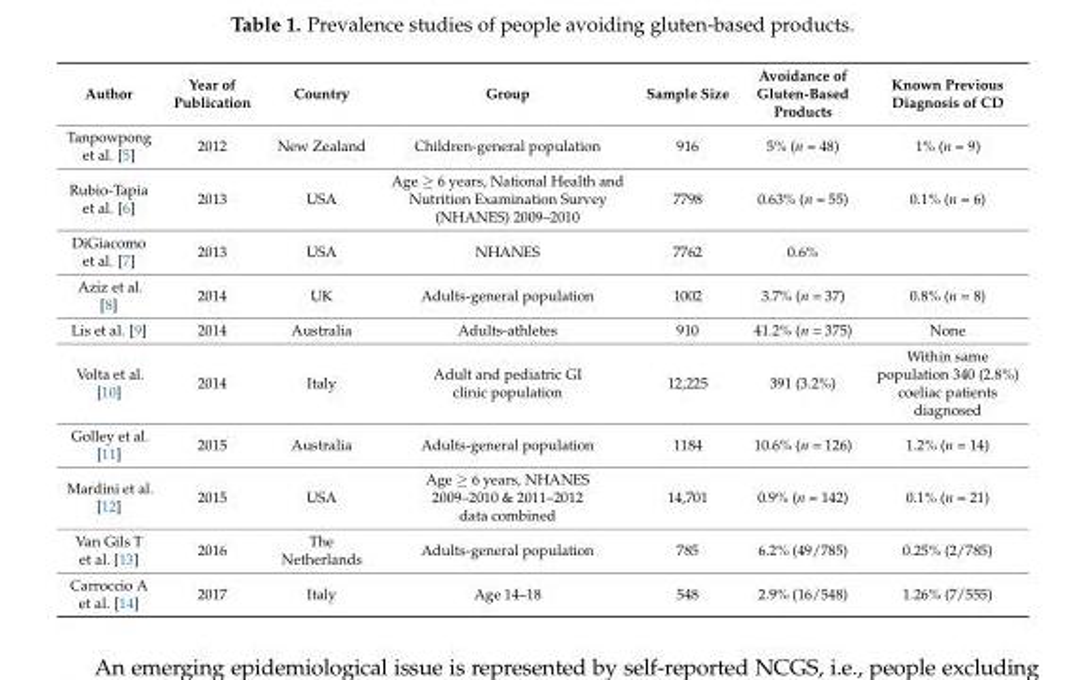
<table><thead><tr><td>Author</td><td>Year of Publication</td><td>Country</td><td>Group</td><td>Sample Size</td><td>Avoidance of Gluten-Based Products</td><td>Known Previous Diagnosis of CD</td></tr></thead><tbody><tr><td>Tanpowpong et al. [5]</td><td>2012</td><td>New Zealand</td><td>Children-general population</td><td>916</td><td>5% (n = 48)</td><td>1% (n = 9)</td></tr><tr><td>Rubio-Tapia et al. [6]</td><td>2013</td><td>USA</td><td>Age ≥ 6 years, National Health and Nutrition Examination Survey (NHANES) 2009–2010</td><td>7798</td><td>0.63% (n = 55)</td><td>0.1% (n = 6)</td></tr><tr><td>DiGiacomo et al. [7]</td><td>2013</td><td>USA</td><td>NHANES</td><td>7762</td><td>0.6%</td><td></td></tr><tr><td>Aziz et al. [8]</td><td>2014</td><td>UK</td><td>Adults-general population</td><td>1002</td><td>3.7% (n = 37)</td><td>0.8% (n = 8)</td></tr><tr><td>Lis et al. [9]</td><td>2014</td><td>Australia</td><td>Adults-athletes</td><td>910</td><td>41.2% (n = 375)</td><td>None</td></tr><tr><td>Volta et al. [10]</td><td>2014</td><td>Italy</td><td>Adult and pediatric GI clinic population</td><td>12,225</td><td>391 (3.2%)</td><td>Within same population 340 (2.8%) coeliac patients diagnosed</td></tr><tr><td>Golley et al. [11]</td><td>2015</td><td>Australia</td><td>Adults-general population</td><td>1184</td><td>10.6% (n = 126)</td><td>1.2% (n = 14)</td></tr><tr><td>Mardini et al. [12]</td><td>2015</td><td>USA</td><td>Age ≥ 6 years, NHANES 2009–2010 &amp; 2011–2012 data combined</td><td>14,701</td><td>0.9% (n = 142)</td><td>0.1% (n = 21)</td></tr><tr><td>Van Gils T et al. [13]</td><td>2016</td><td>The Netherlands</td><td>Adults-general population</td><td>785</td><td>6.2% (49/785)</td><td>0.25% (2/785)</td></tr><tr><td>Carroccio A et al. [14]</td><td>2017</td><td>Italy</td><td>Age 14–18</td><td>548</td><td>2.9% (16/548)</td><td>1.26% (7/555)</td></tr></tbody></table>